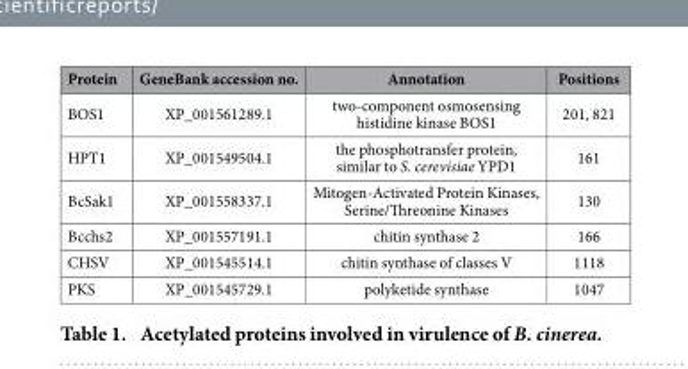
<table><thead><tr><td>Protein</td><td>GeneBank accession no.</td><td>Annotation</td><td>Positions</td></tr></thead><tbody><tr><td>BOS1</td><td>XP_001561289.1</td><td>two-component osmosensing histidine kinase BOS1</td><td>201, 821</td></tr><tr><td>HPT1</td><td>XP_001549504.1</td><td>the phosphotransfer protein, similar to S. cerevisiae YPD1</td><td>161</td></tr><tr><td>BcSak1</td><td>XP_001558337.1</td><td>Mitogen-Activated Protein Kinases, Serine/Threonine Kinases</td><td>130</td></tr><tr><td>Bcchs2</td><td>XP_001557191.1</td><td>chitin synthase 2</td><td>166</td></tr><tr><td>CHSV</td><td>XP_001545514.1</td><td>chitin synthase of classes V</td><td>1118</td></tr><tr><td>PKS</td><td>XP_001545729.1</td><td>polyketide synthase</td><td>1047</td></tr></tbody></table>